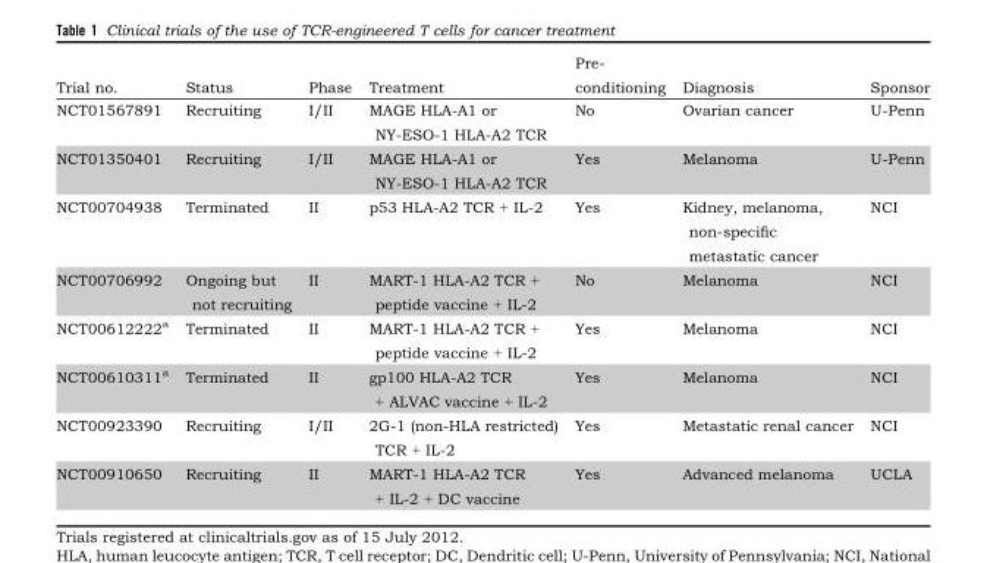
<table><thead><tr><td>Trial no.</td><td>Status</td><td>Phase</td><td>Treatment</td><td>Pre- conditioning</td><td>Diagnosis</td><td>Sponsor</td></tr></thead><tbody><tr><td>NCT01567891</td><td>Recruiting</td><td>I/II</td><td>MAGE HLA-A1 or NY-ESO-1 HLA-A2 TCR</td><td>No</td><td>Ovarian cancer</td><td>U-Penn</td></tr><tr><td>NCT01350401</td><td>Recruiting</td><td>I/II</td><td>MAGE HLA-A1 or NY-ESO-1 HLA-A2 TCR</td><td>Yes</td><td>Melanoma</td><td>U-Penn</td></tr><tr><td>NCT00704938</td><td>Terminated</td><td>II</td><td>p53 HLA-A2 TCR + IL-2</td><td>Yes</td><td>Kidney, melanoma, non-specific metastatic cancer</td><td>NCI</td></tr><tr><td>NCT00706992</td><td>Ongoing but not recruiting</td><td>II</td><td>MART-1 HLA-A2 TCR + peptide vaccine + IL-2</td><td>No</td><td>Melanoma</td><td>NCI</td></tr><tr><td>NCT00612222<sup>a</sup></td><td>Terminated</td><td>II</td><td>MART-1 HLA-A2 TCR + peptide vaccine + IL-2</td><td>Yes</td><td>Melanoma</td><td>NCI</td></tr><tr><td>NCT00610311<sup>a</sup></td><td>Terminated</td><td>II</td><td>gp100 HLA-A2 TCR + ALVAC vaccine + IL-2</td><td>Yes</td><td>Melanoma</td><td>NCI</td></tr><tr><td>NCT00923390</td><td>Recruiting</td><td>I/II</td><td>2G-1 (non-HLA restricted) TCR + IL-2</td><td>Yes</td><td>Metastatic renal cancer</td><td>NCI</td></tr><tr><td>NCT00910650</td><td>Recruiting</td><td>II</td><td>MART-1 HLA-A2 TCR + IL-2 + DC vaccine</td><td>Yes</td><td>Advanced melanoma</td><td>UCLA</td></tr></tbody></table>